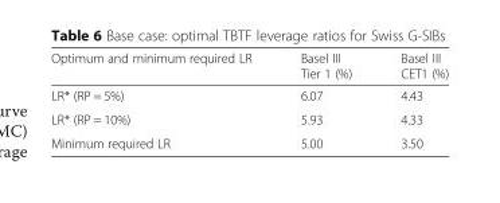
<table><thead><tr><td>Optimum and minimum required LR</td><td>Basel III Tier 1 (%)</td><td>Basel III CET1 (%)</td></tr></thead><tbody><tr><td>LR* (RP = 5%)</td><td>6.07</td><td>4.43</td></tr><tr><td>LR* (RP = 10%)</td><td>5.93</td><td>4.33</td></tr><tr><td>Minimum required LR</td><td>5.00</td><td>3.50</td></tr></tbody></table>